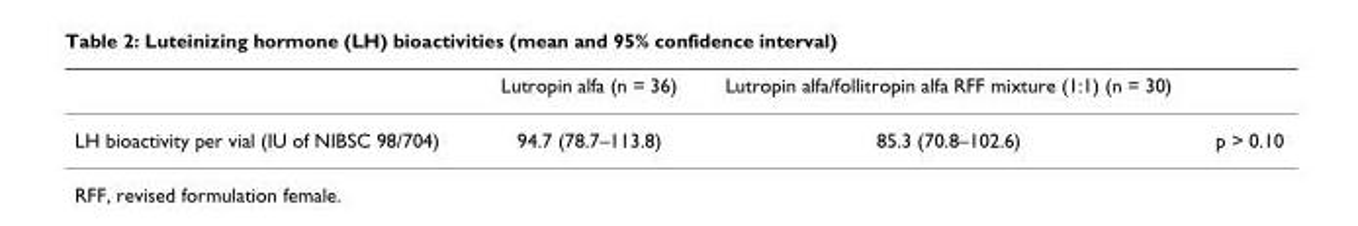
<table><thead><tr><td></td><td>Lutropin alfa (n = 36)</td><td>Lutropin alfa/follitropin alfa RFF mixture (1:1) (n = 30)</td><td></td></tr></thead><tbody><tr><td>LH bioactivity per vial (IU of NIBSC 98/704)</td><td>94.7 (78.7–113.8)</td><td>85.3 (70.8–102.6)</td><td>p &gt; 0.10</td></tr></tbody></table>